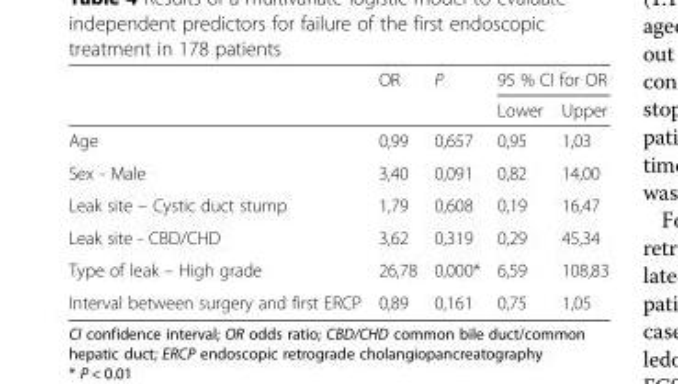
<table><thead><tr><td rowspan="2"></td><td rowspan="2">OR</td><td rowspan="2">P</td><td colspan="2">95 % CI for OR</td></tr><tr><td>Lower</td><td>Upper</td></tr></thead><tbody><tr><td>Age</td><td>0,99</td><td>0,657</td><td>0,95</td><td>1,03</td></tr><tr><td>Sex - Male</td><td>3,40</td><td>0,091</td><td>0,82</td><td>14,00</td></tr><tr><td>Leak site – Cystic duct stump</td><td>1,79</td><td>0,608</td><td>0,19</td><td>16,47</td></tr><tr><td>Leak site - CBD/CHD</td><td>3,62</td><td>0,319</td><td>0,29</td><td>45,34</td></tr><tr><td>Type of leak – High grade</td><td>26,78</td><td>0,000*</td><td>6,59</td><td>108,83</td></tr><tr><td>Interval between surgery and first ERCP</td><td>0,89</td><td>0,161</td><td>0,75</td><td>1,05</td></tr></tbody></table>